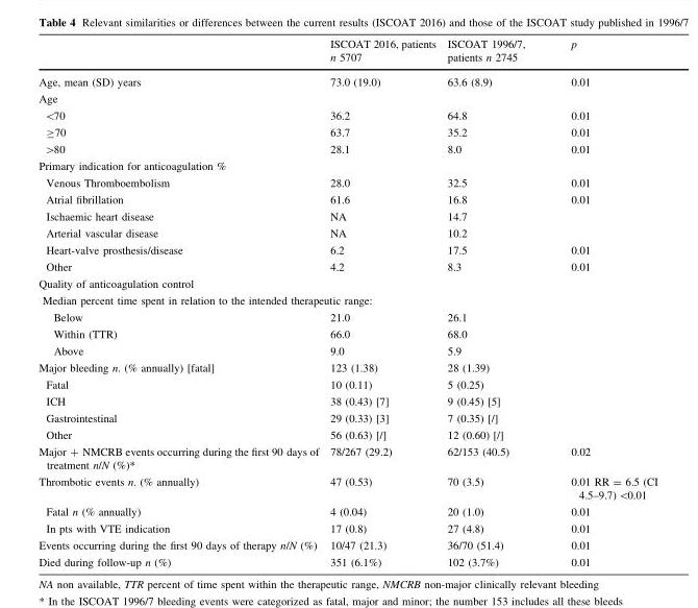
<table><thead><tr><td></td><td>ISCOAT 2016, patients n 5707</td><td>ISCOAT 1996/7, patients n 2745</td><td>p</td></tr></thead><tbody><tr><td>Age, mean (SD) years</td><td>73.0 (19.0)</td><td>63.6 (8.9)</td><td>0.01</td></tr><tr><td colspan="4">Age</td></tr><tr><td>&lt;70</td><td>36.2</td><td>64.8</td><td>0.01</td></tr><tr><td>≥70</td><td>63.7</td><td>35.2</td><td>0.01</td></tr><tr><td>&gt;80</td><td>28.1</td><td>8.0</td><td>0.01</td></tr><tr><td colspan="4">Primary indication for anticoagulation %</td></tr><tr><td>Venous Thromboembolism</td><td>28.0</td><td>32.5</td><td>0.01</td></tr><tr><td>Atrial fibrillation</td><td>61.6</td><td>16.8</td><td>0.01</td></tr><tr><td>Ischaemic heart disease</td><td>NA</td><td>14.7</td><td></td></tr><tr><td>Arterial vascular disease</td><td>NA</td><td>10.2</td><td></td></tr><tr><td>Heart-valve prosthesis/disease</td><td>6.2</td><td>17.5</td><td>0.01</td></tr><tr><td>Other</td><td>4.2</td><td>8.3</td><td>0.01</td></tr><tr><td colspan="4">Quality of anticoagulation control</td></tr><tr><td colspan="4">Median percent time spent in relation to the intended therapeutic range:</td></tr><tr><td>Below</td><td>21.0</td><td>26.1</td><td></td></tr><tr><td>Within (TTR)</td><td>66.0</td><td>68.0</td><td></td></tr><tr><td>Above</td><td>9.0</td><td>5.9</td><td></td></tr><tr><td>Major bleeding n. (% annually) [fatal]</td><td>123 (1.38)</td><td>28 (1.39)</td><td></td></tr><tr><td>Fatal</td><td>10 (0.11)</td><td>5 (0.25)</td><td></td></tr><tr><td>ICH</td><td>38 (0.43) [7]</td><td>9 (0.45) [5]</td><td></td></tr><tr><td>Gastrointestinal</td><td>29 (0.33) [3]</td><td>7 (0.35) [/]</td><td></td></tr><tr><td>Other</td><td>56 (0.63) [/]</td><td>12 (0.60) [/]</td><td></td></tr><tr><td>Major + NMCRB events occurring during the first 90 days of treatment n/N (%)*</td><td>78/267 (29.2)</td><td>62/153 (40.5)</td><td>0.02</td></tr><tr><td>Thrombotic events n. (% annually)</td><td>47 (0.53)</td><td>70 (3.5)</td><td>0.01 RR = 6.5 (CI 4.5–9.7) &lt;0.01</td></tr><tr><td>Fatal n (% annually)</td><td>4 (0.04)</td><td>20 (1.0)</td><td>0.01</td></tr><tr><td>In pts with VTE indication</td><td>17 (0.8)</td><td>27 (4.8)</td><td>0.01</td></tr><tr><td>Events occurring during the first 90 days of therapy n/N (%)</td><td>10/47 (21.3)</td><td>36/70 (51.4)</td><td>0.01</td></tr><tr><td>Died during follow-up n (%)</td><td>351 (6.1%)</td><td>102 (3.7%)</td><td>0.01</td></tr></tbody></table>